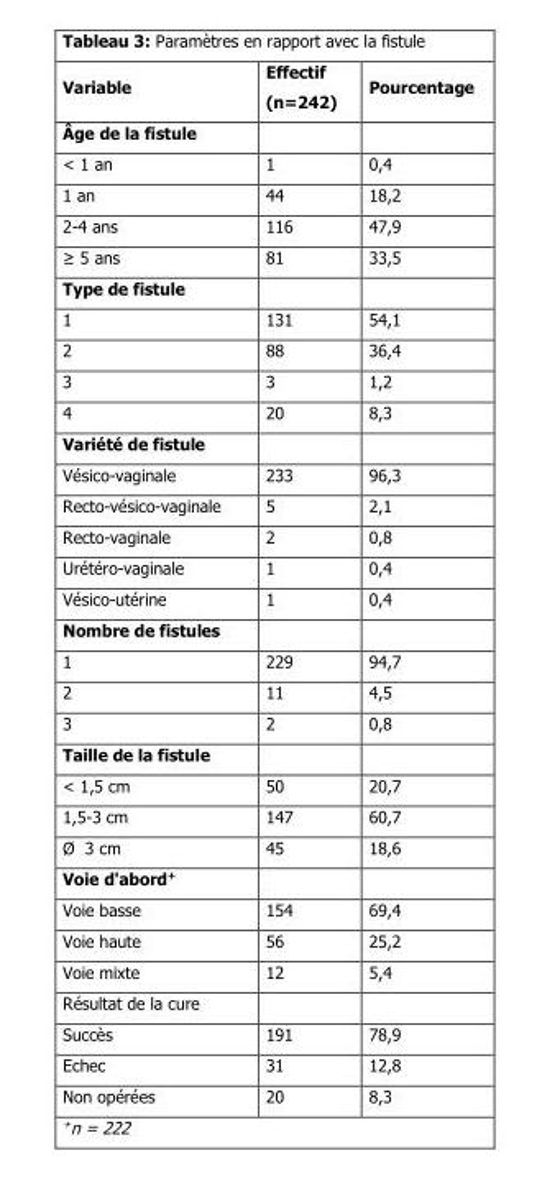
<table><thead><tr><td>Variable</td><td>Effectif (n=242)</td><td>Pourcentage</td></tr></thead><tbody><tr><td colspan="3">Âge de la fistule</td></tr><tr><td>&lt; 1 an</td><td>1</td><td>0,4</td></tr><tr><td>1 an</td><td>44</td><td>18,2</td></tr><tr><td>2-4 ans</td><td>116</td><td>47,9</td></tr><tr><td>≥ 5 ans</td><td>81</td><td>33,5</td></tr><tr><td colspan="3">Type de fistule</td></tr><tr><td>1</td><td>131</td><td>54,1</td></tr><tr><td>2</td><td>88</td><td>36,4</td></tr><tr><td>3</td><td>3</td><td>1,2</td></tr><tr><td>4</td><td>20</td><td>8,3</td></tr><tr><td colspan="3">Variété de fistule</td></tr><tr><td>Vésico-vaginale</td><td>233</td><td>96,3</td></tr><tr><td>Recto-vésico-vaginale</td><td>5</td><td>2,1</td></tr><tr><td>Recto-vaginale</td><td>2</td><td>0,8</td></tr><tr><td>Urétéro-vaginale</td><td>1</td><td>0,4</td></tr><tr><td>Vésico-utérine</td><td>1</td><td>0,4</td></tr><tr><td colspan="3">Nombre de fistules</td></tr><tr><td>1</td><td>229</td><td>94,7</td></tr><tr><td>2</td><td>11</td><td>4,5</td></tr><tr><td>3</td><td>2</td><td>0,8</td></tr><tr><td colspan="3">Taille de la fistule</td></tr><tr><td>&lt; 1,5 cm</td><td>50</td><td>20,7</td></tr><tr><td>1,5-3 cm</td><td>147</td><td>60,7</td></tr><tr><td>Ø 3 cm</td><td>45</td><td>18,6</td></tr><tr><td colspan="3">Voie d&#x27;abord<sup>+</sup></td></tr><tr><td>Voie basse</td><td>154</td><td>69,4</td></tr><tr><td>Voie haute</td><td>56</td><td>25,2</td></tr><tr><td>Voie mixte</td><td>12</td><td>5,4</td></tr><tr><td colspan="3">Résultat de la cure</td></tr><tr><td>Succès</td><td>191</td><td>78,9</td></tr><tr><td>Echec</td><td>31</td><td>12,8</td></tr><tr><td>Non opérées</td><td>20</td><td>8,3</td></tr><tr><td colspan="3"><sup>+</sup>n = 222</td></tr></tbody></table>